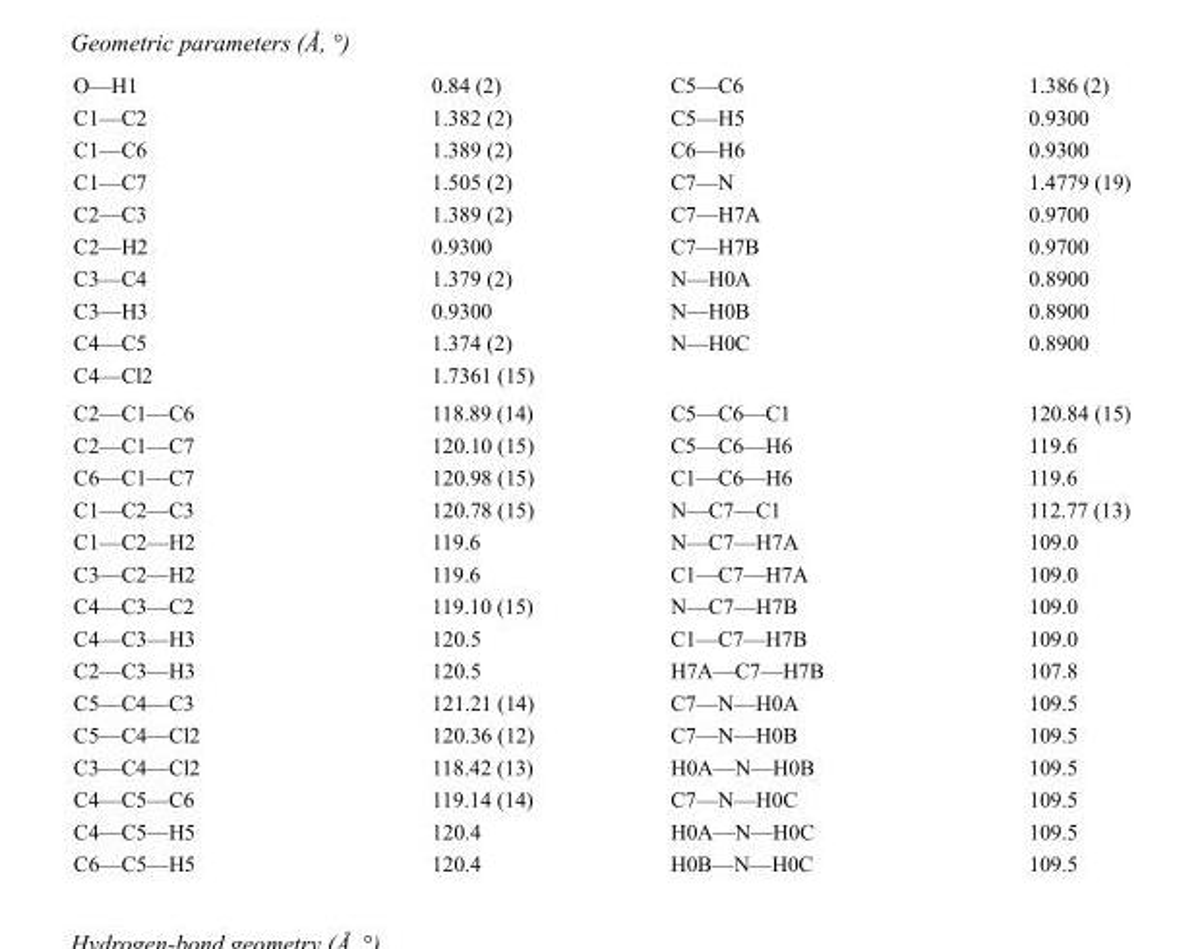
<table><tbody><tr><td>O—H1</td><td>0.84 (2)</td><td>C5—C6</td><td>1.386 (2)</td></tr><tr><td>C1—C2</td><td>1.382 (2)</td><td>C5—H5</td><td>0.9300</td></tr><tr><td>C1—C6</td><td>1.389 (2)</td><td>C6—H6</td><td>0.9300</td></tr><tr><td>C1—C7</td><td>1.505 (2)</td><td>C7—N</td><td>1.4779 (19)</td></tr><tr><td>C2—C3</td><td>1.389 (2)</td><td>C7—H7A</td><td>0.9700</td></tr><tr><td>C2—H2</td><td>0.9300</td><td>C7—H7B</td><td>0.9700</td></tr><tr><td>C3—C4</td><td>1.379 (2)</td><td>N—H0A</td><td>0.8900</td></tr><tr><td>C3—H3</td><td>0.9300</td><td>N—H0B</td><td>0.8900</td></tr><tr><td>C4—C5</td><td>1.374 (2)</td><td>N—H0C</td><td>0.8900</td></tr><tr><td>C4—Cl2</td><td>1.7361 (15)</td><td></td><td></td></tr><tr><td>C2—C1—C6</td><td>118.89 (14)</td><td>C5—C6—C1</td><td>120.84 (15)</td></tr><tr><td>C2—C1—C7</td><td>120.10 (15)</td><td>C5—C6—H6</td><td>119.6</td></tr><tr><td>C6—C1—C7</td><td>120.98 (15)</td><td>C1—C6—H6</td><td>119.6</td></tr><tr><td>C1—C2—C3</td><td>120.78 (15)</td><td>N—C7—C1</td><td>112.77 (13)</td></tr><tr><td>C1—C2—H2</td><td>119.6</td><td>N—C7—H7A</td><td>109.0</td></tr><tr><td>C3—C2—H2</td><td>119.6</td><td>C1—C7—H7A</td><td>109.0</td></tr><tr><td>C4—C3—C2</td><td>119.10 (15)</td><td>N—C7—H7B</td><td>109.0</td></tr><tr><td>C4—C3—H3</td><td>120.5</td><td>C1—C7—H7B</td><td>109.0</td></tr><tr><td>C2—C3—H3</td><td>120.5</td><td>H7A—C7—H7B</td><td>107.8</td></tr><tr><td>C5—C4—C3</td><td>121.21 (14)</td><td>C7—N—H0A</td><td>109.5</td></tr><tr><td>C5—C4—Cl2</td><td>120.36 (12)</td><td>C7—N—H0B</td><td>109.5</td></tr><tr><td>C3—C4—Cl2</td><td>118.42 (13)</td><td>H0A—N—H0B</td><td>109.5</td></tr><tr><td>C4—C5—C6</td><td>119.14 (14)</td><td>C7—N—H0C</td><td>109.5</td></tr><tr><td>C4—C5—H5</td><td>120.4</td><td>H0A—N—H0C</td><td>109.5</td></tr><tr><td>C6—C5—H5</td><td>120.4</td><td>H0B—N—H0C</td><td>109.5</td></tr></tbody></table>